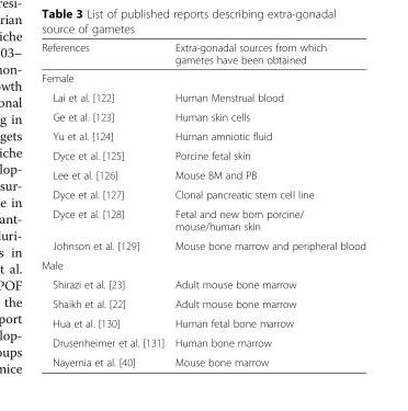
<table><thead><tr><td>References</td><td>Extra-gonadal sources from which gametes have been obtained</td></tr></thead><tbody><tr><td colspan="2">Female</td></tr><tr><td>Lai et al. [122]</td><td>Human Menstrual blood</td></tr><tr><td>Ge et al. [123]</td><td>Human skin cells</td></tr><tr><td>Yu et al. [124]</td><td>Human amniotic fluid</td></tr><tr><td>Dyce et al. [125]</td><td>Porcine fetal skin</td></tr><tr><td>Lee et al. [126]</td><td>Mouse BM and PB</td></tr><tr><td>Dyce et al. [127]</td><td>Clonal pancreatic stem cell line</td></tr><tr><td>Dyce et al. [128]</td><td>Fetal and new born porcine/ mouse/human skin</td></tr><tr><td>Johnson et al. [129]</td><td>Mouse bone marrow and peripheral blood</td></tr><tr><td colspan="2">Male</td></tr><tr><td>Shirazi et al. [23]</td><td>Adult mouse bone marrow</td></tr><tr><td>Shaikh et al. [22]</td><td>Adult mouse bone marrow</td></tr><tr><td>Hua et al. [130]</td><td>Human fetal bone marrow</td></tr><tr><td>Drusenheimer et al. [131]</td><td>Human bone marrow</td></tr><tr><td>Nayernia et al. [40]</td><td>Mouse bone marrow</td></tr></tbody></table>